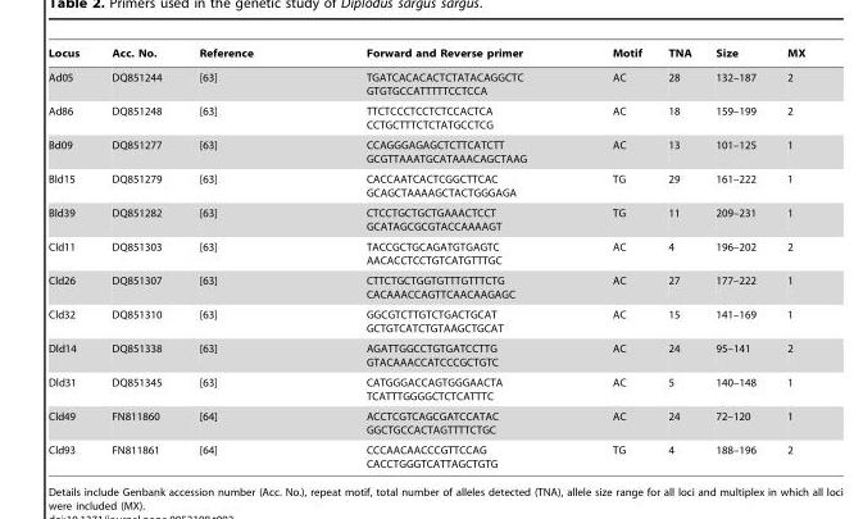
<table><thead><tr><td>Locus</td><td>Acc. No.</td><td>Reference</td><td>Forward and Reverse primer</td><td>Motif</td><td>TNA</td><td>Size</td><td>MX</td></tr></thead><tbody><tr><td>Ad05</td><td>DQ851244</td><td>[63]</td><td>TGATCACACACTCTATACAGGCTC GTGTGCCATTTTTCCTCCA</td><td>AC</td><td>28</td><td>132–187</td><td>2</td></tr><tr><td>Ad86</td><td>DQ851248</td><td>[63]</td><td>TTCTCCCTCCTCTCCACTCA CCTGCTTTCTCTATGCCTCG</td><td>AC</td><td>18</td><td>159–199</td><td>2</td></tr><tr><td>Bd09</td><td>DQ851277</td><td>[63]</td><td>CCAGGGAGAGCTCTTCATCTT GCGTTAAATGCATAAACAGCTAAG</td><td>AC</td><td>13</td><td>101–125</td><td>1</td></tr><tr><td>Bld15</td><td>DQ851279</td><td>[63]</td><td>CACCAATCACTCGGCTTCAC GCAGCTAAAAGCTACTGGGAGA</td><td>TG</td><td>29</td><td>161–222</td><td>1</td></tr><tr><td>Bld39</td><td>DQ851282</td><td>[63]</td><td>CTCCTGCTGCTGAAACTCCT GCATAGCGCGTACCAAAAGT</td><td>TG</td><td>11</td><td>209–231</td><td>1</td></tr><tr><td>Cld11</td><td>DQ851303</td><td>[63]</td><td>TACCGCTGCAGATGTGAGTC AACACCTCCTGTCATGTTTGC</td><td>AC</td><td>4</td><td>196–202</td><td>2</td></tr><tr><td>Cld26</td><td>DQ851307</td><td>[63]</td><td>CTTCTGCTGGTGTTTGTTTCTG CACAAACCAGTTCAACAAGAGC</td><td>AC</td><td>27</td><td>177–222</td><td>1</td></tr><tr><td>Cld32</td><td>DQ851310</td><td>[63]</td><td>GGCGTCTTGTCTGACTGCAT GCTGTCATCTGTAAGCTGCAT</td><td>AC</td><td>15</td><td>141–169</td><td>1</td></tr><tr><td>Dld14</td><td>DQ851338</td><td>[63]</td><td>AGATTGGCCTGTGATCCTTG GTACAAACCATCCCGCTGTC</td><td>AC</td><td>24</td><td>95–141</td><td>2</td></tr><tr><td>Dld31</td><td>DQ851345</td><td>[63]</td><td>CATGGGACCAGTGGGAACTA TCATTTGGGGCTCTCATTTC</td><td>AC</td><td>5</td><td>140–148</td><td>1</td></tr><tr><td>Cld49</td><td>FN811860</td><td>[64]</td><td>ACCTCGTCAGCGATCCATAC GGCTGCCACTAGTTTTCTGC</td><td>AC</td><td>24</td><td>72–120</td><td>1</td></tr><tr><td>Cld93</td><td>FN811861</td><td>[64]</td><td>CCCAACAACCCGTTCCAG CACCTGGGTCATTAGCTGTG</td><td>TG</td><td>4</td><td>188–196</td><td>2</td></tr></tbody></table>